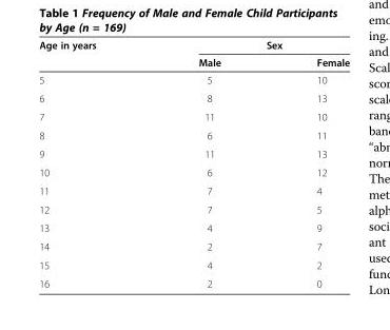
<table><thead><tr><td rowspan="2">Age in years</td><td colspan="2">Sex</td></tr><tr><td>Male</td><td>Female</td></tr></thead><tbody><tr><td>5</td><td>5</td><td>10</td></tr><tr><td>6</td><td>8</td><td>13</td></tr><tr><td>7</td><td>11</td><td>10</td></tr><tr><td>8</td><td>6</td><td>11</td></tr><tr><td>9</td><td>11</td><td>13</td></tr><tr><td>10</td><td>6</td><td>12</td></tr><tr><td>11</td><td>7</td><td>4</td></tr><tr><td>12</td><td>7</td><td>5</td></tr><tr><td>13</td><td>4</td><td>9</td></tr><tr><td>14</td><td>2</td><td>7</td></tr><tr><td>15</td><td>4</td><td>2</td></tr><tr><td>16</td><td>2</td><td>0</td></tr></tbody></table>